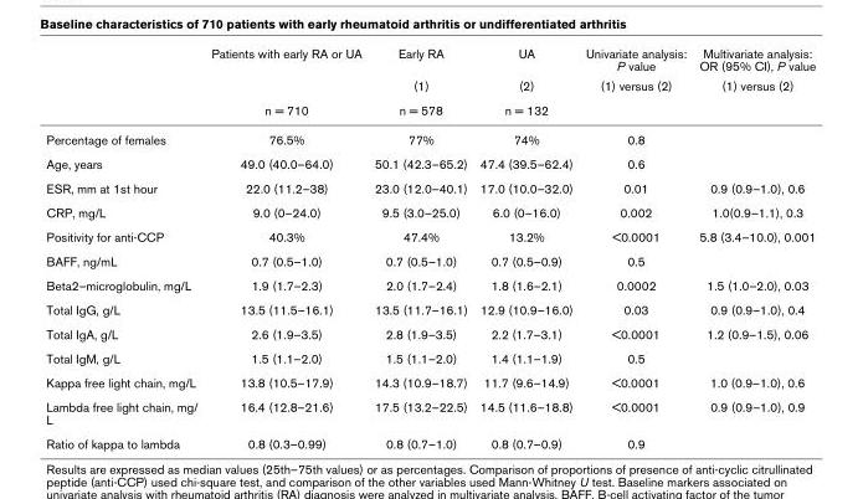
<table><thead><tr><td rowspan="3"></td><td rowspan="3">Patients with early RA or UA n = 710</td><td rowspan="3">Early RA (1) n = 578</td><td rowspan="3">UA (2) n = 132</td><td rowspan="3">Univariate analysis: P value (1) versus (2)</td><td rowspan="3">Multivariate analysis: OR (95% CI), P value (1) versus (2)</td></tr><tr></tr><tr></tr></thead><tbody><tr><td>Percentage of females</td><td>76.5%</td><td>77%</td><td>74%</td><td>0.8</td><td></td></tr><tr><td>Age, years</td><td>49.0 (40.0–64.0)</td><td>50.1 (42.3–65.2)</td><td>47.4 (39.5–62.4)</td><td>0.6</td><td></td></tr><tr><td>ESR, mm at 1st hour</td><td>22.0 (11.2–38)</td><td>23.0 (12.0–40.1)</td><td>17.0 (10.0–32.0)</td><td>0.01</td><td>0.9 (0.9–1.0), 0.6</td></tr><tr><td>CRP, mg/L</td><td>9.0 (0–24.0)</td><td>9.5 (3.0–25.0)</td><td>6.0 (0–16.0)</td><td>0.002</td><td>1.0(0.9–1.1), 0.3</td></tr><tr><td>Positivity for anti-CCP</td><td>40.3%</td><td>47.4%</td><td>13.2%</td><td>&lt;0.0001</td><td>5.8 (3.4–10.0), 0.001</td></tr><tr><td>BAFF, ng/mL</td><td>0.7 (0.5–1.0)</td><td>0.7 (0.5–1.0)</td><td>0.7 (0.5–0.9)</td><td>0.5</td><td></td></tr><tr><td>Beta2–microglobulin, mg/L</td><td>1.9 (1.7–2.3)</td><td>2.0 (1.7–2.4)</td><td>1.8 (1.6–2.1)</td><td>0.0002</td><td>1.5 (1.0–2.0), 0.03</td></tr><tr><td>Total IgG, g/L</td><td>13.5 (11.5–16.1)</td><td>13.5 (11.7–16.1)</td><td>12.9 (10.9–16.0)</td><td>0.03</td><td>0.9 (0.9–1.0), 0.4</td></tr><tr><td>Total IgA, g/L</td><td>2.6 (1.9–3.5)</td><td>2.8 (1.9–3.5)</td><td>2.2 (1.7–3.1)</td><td>&lt;0.0001</td><td>1.2 (0.9–1.5), 0.06</td></tr><tr><td>Total IgM, g/L</td><td>1.5 (1.1–2.0)</td><td>1.5 (1.1–2.0)</td><td>1.4 (1.1–1.9)</td><td>0.5</td><td></td></tr><tr><td>Kappa free light chain, mg/L</td><td>13.8 (10.5–17.9)</td><td>14.3 (10.9–18.7)</td><td>11.7 (9.6–14.9)</td><td>&lt;0.0001</td><td>1.0 (0.9–1.0), 0.6</td></tr><tr><td>Lambda free light chain, mg/ L</td><td>16.4 (12.8–21.6)</td><td>17.5 (13.2–22.5)</td><td>14.5 (11.6–18.8)</td><td>&lt;0.0001</td><td>0.9 (0.9–1.0), 0.9</td></tr><tr><td>Ratio of kappa to lambda</td><td>0.8 (0.3–0.99)</td><td>0.8 (0.7–1.0)</td><td>0.8 (0.7–0.9)</td><td>0.9</td><td></td></tr></tbody></table>